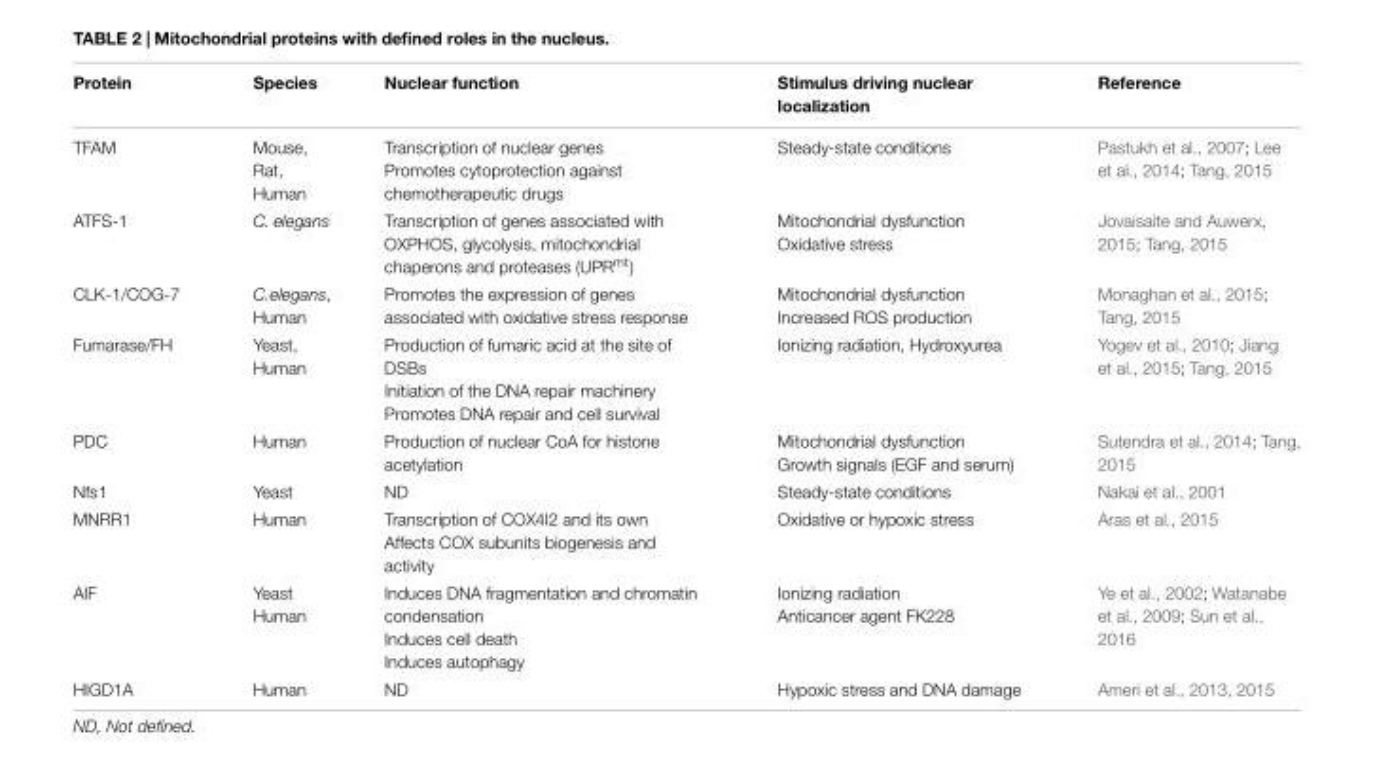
<table><thead><tr><td>Protein</td><td>Species</td><td>Nuclear function</td><td>Stimulus driving nuclear localization</td><td>Reference</td></tr></thead><tbody><tr><td>TFAM</td><td>Mouse, Rat, Human</td><td>Transcription of nuclear genes Promotes cytoprotection against chemotherapeutic drugs</td><td>Steady-state conditions</td><td>Pastukh et al., 2007; Lee et al., 2014; Tang, 2015</td></tr><tr><td>ATFS-1</td><td>C. elegans</td><td>Transcription of genes associated with OXPHOS, glycolysis, mitochondrial chaperons and proteases (UPR<sup>mt</sup>)</td><td>Mitochondrial dysfunction Oxidative stress</td><td>Jovaisaite and Auwerx, 2015; Tang, 2015</td></tr><tr><td>CLK-1/COG-7</td><td>C.elegans, Human</td><td>Promotes the expression of genes associated with oxidative stress response</td><td>Mitochondrial dysfunction Increased ROS production</td><td>Monaghan et al., 2015; Tang, 2015</td></tr><tr><td>Fumarase/FH</td><td>Yeast, Human</td><td>Production of fumaric acid at the site of DSBs Initiation of the DNA repair machinery Promotes DNA repair and cell survival</td><td>Ionizing radiation, Hydroxyurea</td><td>Yogev et al., 2010; Jiang et al., 2015; Tang, 2015</td></tr><tr><td>PDC</td><td>Human</td><td>Production of nuclear CoA for histone acetylation</td><td>Mitochondrial dysfunction Growth signals (EGF and serum)</td><td>Sutendra et al., 2014; Tang, 2015</td></tr><tr><td>Nfs1</td><td>Yeast</td><td>ND</td><td>Steady-state conditions</td><td>Nakai et al., 2001</td></tr><tr><td>MNRR1</td><td>Human</td><td>Transcription of COX4I2 and its own Affects COX subunits biogenesis and activity</td><td>Oxidative or hypoxic stress</td><td>Aras et al., 2015</td></tr><tr><td>AIF</td><td>Yeast Human</td><td>Induces DNA fragmentation and chromatin condensation Induces cell death Induces autophagy</td><td>Ionizing radiation Anticancer agent FK228</td><td>Ye et al., 2002; Watanabe et al., 2009; Sun et al., 2016</td></tr><tr><td>HIGD1A</td><td>Human</td><td>ND</td><td>Hypoxic stress and DNA damage</td><td>Ameri et al., 2013, 2015</td></tr></tbody></table>